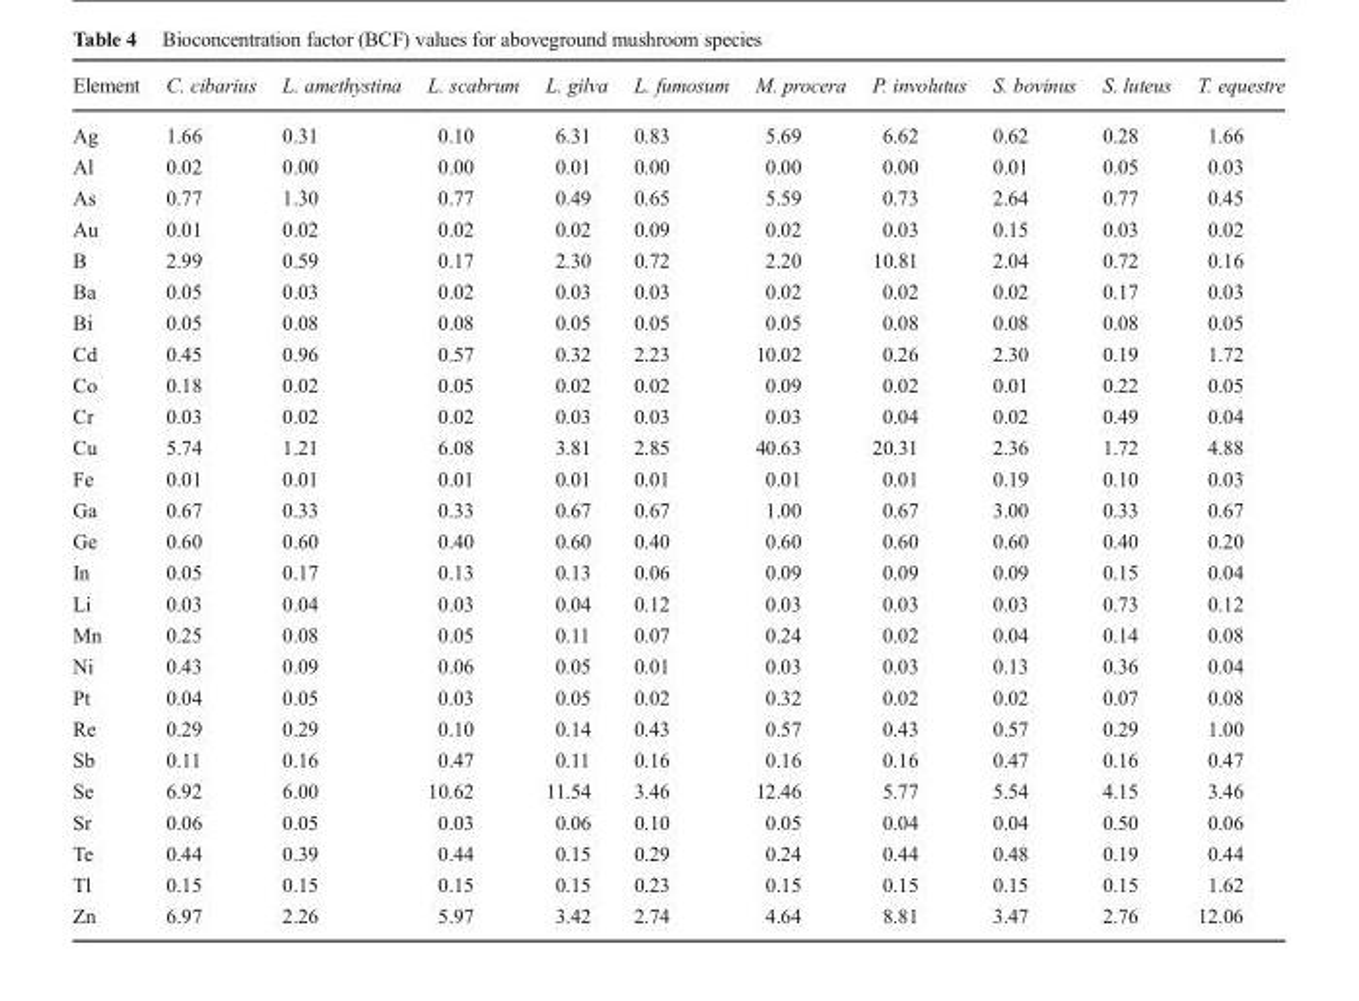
<table><thead><tr><td>Element</td><td>C. cibarius</td><td>L. amethystina</td><td>L. scabrum</td><td>L. gilva</td><td>L. fumosum</td><td>M. procera</td><td>P. involutus</td><td>S. bovinus</td><td>S. luteus</td><td>T. equestre</td></tr></thead><tbody><tr><td>Ag</td><td>1.66</td><td>0.31</td><td>0.10</td><td>6.31</td><td>0.83</td><td>5.69</td><td>6.62</td><td>0.62</td><td>0.28</td><td>1.66</td></tr><tr><td>Al</td><td>0.02</td><td>0.00</td><td>0.00</td><td>0.01</td><td>0.00</td><td>0.00</td><td>0.00</td><td>0.01</td><td>0.05</td><td>0.03</td></tr><tr><td>As</td><td>0.77</td><td>1.30</td><td>0.77</td><td>0.49</td><td>0.65</td><td>5.59</td><td>0.73</td><td>2.64</td><td>0.77</td><td>0.45</td></tr><tr><td>Au</td><td>0.01</td><td>0.02</td><td>0.02</td><td>0.02</td><td>0.09</td><td>0.02</td><td>0.03</td><td>0.15</td><td>0.03</td><td>0.02</td></tr><tr><td>B</td><td>2.99</td><td>0.59</td><td>0.17</td><td>2.30</td><td>0.72</td><td>2.20</td><td>10.81</td><td>2.04</td><td>0.72</td><td>0.16</td></tr><tr><td>Ba</td><td>0.05</td><td>0.03</td><td>0.02</td><td>0.03</td><td>0.03</td><td>0.02</td><td>0.02</td><td>0.02</td><td>0.17</td><td>0.03</td></tr><tr><td>Bi</td><td>0.05</td><td>0.08</td><td>0.08</td><td>0.05</td><td>0.05</td><td>0.05</td><td>0.08</td><td>0.08</td><td>0.08</td><td>0.05</td></tr><tr><td>Cd</td><td>0.45</td><td>0.96</td><td>0.57</td><td>0.32</td><td>2.23</td><td>10.02</td><td>0.26</td><td>2.30</td><td>0.19</td><td>1.72</td></tr><tr><td>Co</td><td>0.18</td><td>0.02</td><td>0.05</td><td>0.02</td><td>0.02</td><td>0.09</td><td>0.02</td><td>0.01</td><td>0.22</td><td>0.05</td></tr><tr><td>Cr</td><td>0.03</td><td>0.02</td><td>0.02</td><td>0.03</td><td>0.03</td><td>0.03</td><td>0.04</td><td>0.02</td><td>0.49</td><td>0.04</td></tr><tr><td>Cu</td><td>5.74</td><td>1.21</td><td>6.08</td><td>3.81</td><td>2.85</td><td>40.63</td><td>20.31</td><td>2.36</td><td>1.72</td><td>4.88</td></tr><tr><td>Fe</td><td>0.01</td><td>0.01</td><td>0.01</td><td>0.01</td><td>0.01</td><td>0.01</td><td>0.01</td><td>0.19</td><td>0.10</td><td>0.03</td></tr><tr><td>Ga</td><td>0.67</td><td>0.33</td><td>0.33</td><td>0.67</td><td>0.67</td><td>1.00</td><td>0.67</td><td>3.00</td><td>0.33</td><td>0.67</td></tr><tr><td>Ge</td><td>0.60</td><td>0.60</td><td>0.40</td><td>0.60</td><td>0.40</td><td>0.60</td><td>0.60</td><td>0.60</td><td>0.40</td><td>0.20</td></tr><tr><td>In</td><td>0.05</td><td>0.17</td><td>0.13</td><td>0.13</td><td>0.06</td><td>0.09</td><td>0.09</td><td>0.09</td><td>0.15</td><td>0.04</td></tr><tr><td>Li</td><td>0.03</td><td>0.04</td><td>0.03</td><td>0.04</td><td>0.12</td><td>0.03</td><td>0.03</td><td>0.03</td><td>0.73</td><td>0.12</td></tr><tr><td>Mn</td><td>0.25</td><td>0.08</td><td>0.05</td><td>0.11</td><td>0.07</td><td>0.24</td><td>0.02</td><td>0.04</td><td>0.14</td><td>0.08</td></tr><tr><td>Ni</td><td>0.43</td><td>0.09</td><td>0.06</td><td>0.05</td><td>0.01</td><td>0.03</td><td>0.03</td><td>0.13</td><td>0.36</td><td>0.04</td></tr><tr><td>Pt</td><td>0.04</td><td>0.05</td><td>0.03</td><td>0.05</td><td>0.02</td><td>0.32</td><td>0.02</td><td>0.02</td><td>0.07</td><td>0.08</td></tr><tr><td>Re</td><td>0.29</td><td>0.29</td><td>0.10</td><td>0.14</td><td>0.43</td><td>0.57</td><td>0.43</td><td>0.57</td><td>0.29</td><td>1.00</td></tr><tr><td>Sb</td><td>0.11</td><td>0.16</td><td>0.47</td><td>0.11</td><td>0.16</td><td>0.16</td><td>0.16</td><td>0.47</td><td>0.16</td><td>0.47</td></tr><tr><td>Se</td><td>6.92</td><td>6.00</td><td>10.62</td><td>11.54</td><td>3.46</td><td>12.46</td><td>5.77</td><td>5.54</td><td>4.15</td><td>3.46</td></tr><tr><td>Sr</td><td>0.06</td><td>0.05</td><td>0.03</td><td>0.06</td><td>0.10</td><td>0.05</td><td>0.04</td><td>0.04</td><td>0.50</td><td>0.06</td></tr><tr><td>Te</td><td>0.44</td><td>0.39</td><td>0.44</td><td>0.15</td><td>0.29</td><td>0.24</td><td>0.44</td><td>0.48</td><td>0.19</td><td>0.44</td></tr><tr><td>Tl</td><td>0.15</td><td>0.15</td><td>0.15</td><td>0.15</td><td>0.23</td><td>0.15</td><td>0.15</td><td>0.15</td><td>0.15</td><td>1.62</td></tr><tr><td>Zn</td><td>6.97</td><td>2.26</td><td>5.97</td><td>3.42</td><td>2.74</td><td>4.64</td><td>8.81</td><td>3.47</td><td>2.76</td><td>12.06</td></tr></tbody></table>